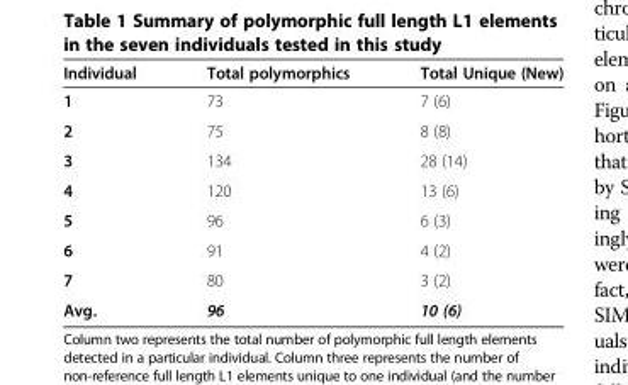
<table><thead><tr><td>Individual</td><td>Total polymorphics</td><td>Total Unique (New)</td></tr></thead><tbody><tr><td>1</td><td>73</td><td>7 (6)</td></tr><tr><td>2</td><td>75</td><td>8 (8)</td></tr><tr><td>3</td><td>134</td><td>28 (14)</td></tr><tr><td>4</td><td>120</td><td>13 (6)</td></tr><tr><td>5</td><td>96</td><td>6 (3)</td></tr><tr><td>6</td><td>91</td><td>4 (2)</td></tr><tr><td>7</td><td>80</td><td>3 (2)</td></tr><tr><td>Avg.</td><td>96</td><td>10 (6)</td></tr></tbody></table>